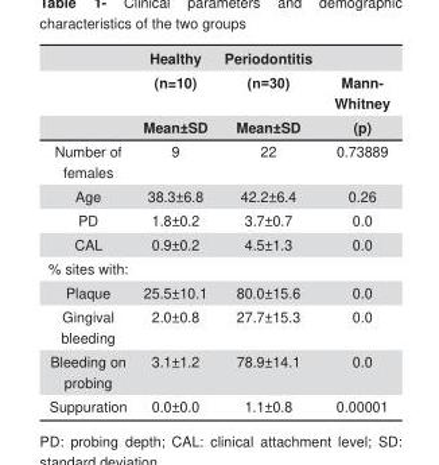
<table><thead><tr><td rowspan="3"></td><td rowspan="3">Healthy (n=10) Mean±SD</td><td rowspan="3">Periodontitis (n=30) Mean±SD</td><td rowspan="3">Mann- Whitney (p)</td></tr><tr></tr><tr></tr></thead><tbody><tr><td>Number of females</td><td>9</td><td>22</td><td>0.73889</td></tr><tr><td>Age</td><td>38.3±6.8</td><td>42.2±6.4</td><td>0.26</td></tr><tr><td>PD</td><td>1.8±0.2</td><td>3.7±0.7</td><td>0.0</td></tr><tr><td>CAL</td><td>0.9±0.2</td><td>4.5±1.3</td><td>0.0</td></tr><tr><td colspan="4">% sites with:</td></tr><tr><td>Plaque</td><td>25.5±10.1</td><td>80.0±15.6</td><td>0.0</td></tr><tr><td>Gingival bleeding</td><td>2.0±0.8</td><td>27.7±15.3</td><td>0.0</td></tr><tr><td>Bleeding on probing</td><td>3.1±1.2</td><td>78.9±14.1</td><td>0.0</td></tr><tr><td>Suppuration</td><td>0.0±0.0</td><td>1.1±0.8</td><td>0.00001</td></tr></tbody></table>